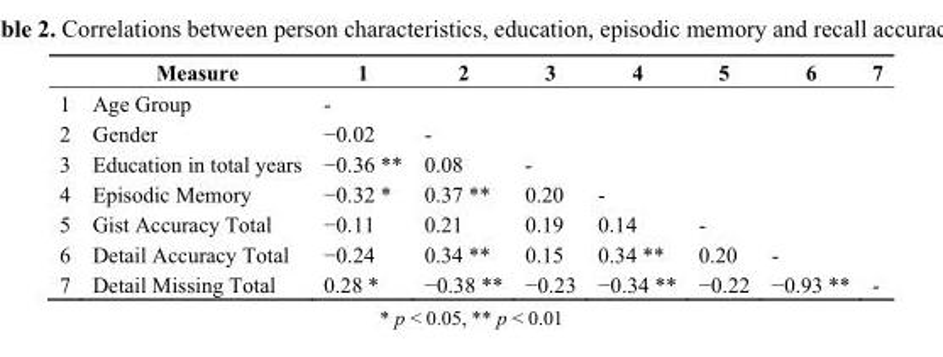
<table><thead><tr><td></td><td>Measure</td><td>1</td><td>2</td><td>3</td><td>4</td><td>5</td><td>6</td><td>7</td></tr></thead><tbody><tr><td>1</td><td>Age Group</td><td>-</td><td></td><td></td><td></td><td></td><td></td><td></td></tr><tr><td>2</td><td>Gender</td><td>−0.02</td><td>-</td><td></td><td></td><td></td><td></td><td></td></tr><tr><td>3</td><td>Education in total years</td><td>−0.36 **</td><td>0.08</td><td>-</td><td></td><td></td><td></td><td></td></tr><tr><td>4</td><td>Episodic Memory</td><td>−0.32 *</td><td>0.37 **</td><td>0.20</td><td>-</td><td></td><td></td><td></td></tr><tr><td>5</td><td>Gist Accuracy Total</td><td>−0.11</td><td>0.21</td><td>0.19</td><td>0.14</td><td>-</td><td></td><td></td></tr><tr><td>6</td><td>Detail Accuracy Total</td><td>−0.24</td><td>0.34 **</td><td>0.15</td><td>0.34 **</td><td>0.20</td><td>-</td><td></td></tr><tr><td>7</td><td>Detail Missing Total</td><td>0.28 *</td><td>−0.38 **</td><td>−0.23</td><td>−0.34 **</td><td>−0.22</td><td>−0.93 **</td><td>-</td></tr></tbody></table>